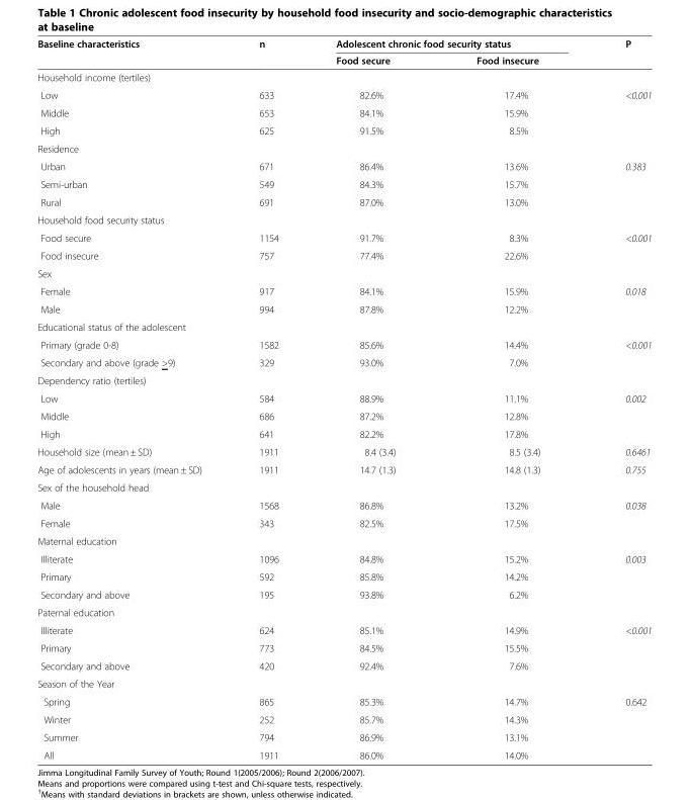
<table><thead><tr><td rowspan="2">Baseline characteristics</td><td rowspan="2">n</td><td colspan="2">Adolescent chronic food security status</td><td rowspan="2">P</td></tr><tr><td>Food secure</td><td>Food insecure</td></tr></thead><tbody><tr><td colspan="5">Household income (tertiles)</td></tr><tr><td>Low</td><td>633</td><td>82.6%</td><td>17.4%</td><td rowspan="3">&lt;0.001</td></tr><tr><td>Middle</td><td>653</td><td>84.1%</td><td>15.9%</td></tr><tr><td>High</td><td>625</td><td>91.5%</td><td>8.5%</td></tr><tr><td colspan="5">Residence</td></tr><tr><td>Urban</td><td>671</td><td>86.4%</td><td>13.6%</td><td rowspan="3">0.383</td></tr><tr><td>Semi-urban</td><td>549</td><td>84.3%</td><td>15.7%</td></tr><tr><td>Rural</td><td>691</td><td>87.0%</td><td>13.0%</td></tr><tr><td colspan="5">Household food security status</td></tr><tr><td>Food secure</td><td>1154</td><td>91.7%</td><td>8.3%</td><td rowspan="2">&lt;0.001</td></tr><tr><td>Food insecure</td><td>757</td><td>77.4%</td><td>22.6%</td></tr><tr><td colspan="5">Sex</td></tr><tr><td>Female</td><td>917</td><td>84.1%</td><td>15.9%</td><td rowspan="2">0.018</td></tr><tr><td>Male</td><td>994</td><td>87.8%</td><td>12.2%</td></tr><tr><td colspan="5">Educational status of the adolescent</td></tr><tr><td>Primary (grade 0-8)</td><td>1582</td><td>85.6%</td><td>14.4%</td><td rowspan="2">&lt;0.001</td></tr><tr><td>Secondary and above (grade &gt;9)</td><td>329</td><td>93.0%</td><td>7.0%</td></tr><tr><td colspan="5">Dependency ratio (tertiles)</td></tr><tr><td>Low</td><td>584</td><td>88.9%</td><td>11.1%</td><td rowspan="3">0.002</td></tr><tr><td>Middle</td><td>686</td><td>87.2%</td><td>12.8%</td></tr><tr><td>High</td><td>641</td><td>82.2%</td><td>17.8%</td></tr><tr><td>Household size (mean ± SD)</td><td>1911</td><td>8.4 (3.4)</td><td>8.5 (3.4)</td><td>0.6461</td></tr><tr><td>Age of adolescents in years (mean ± SD)</td><td>1911</td><td>14.7 (1.3)</td><td>14.8 (1.3)</td><td>0.755</td></tr><tr><td colspan="5">Sex of the household head</td></tr><tr><td>Male</td><td>1568</td><td>86.8%</td><td>13.2%</td><td rowspan="2">0.038</td></tr><tr><td>Female</td><td>343</td><td>82.5%</td><td>17.5%</td></tr><tr><td colspan="5">Maternal education</td></tr><tr><td>Illiterate</td><td>1096</td><td>84.8%</td><td>15.2%</td><td rowspan="3">0.003</td></tr><tr><td>Primary</td><td>592</td><td>85.8%</td><td>14.2%</td></tr><tr><td>Secondary and above</td><td>195</td><td>93.8%</td><td>6.2%</td></tr><tr><td colspan="5">Paternal education</td></tr><tr><td>Illiterate</td><td>624</td><td>85.1%</td><td>14.9%</td><td rowspan="3">&lt;0.001</td></tr><tr><td>Primary</td><td>773</td><td>84.5%</td><td>15.5%</td></tr><tr><td>Secondary and above</td><td>420</td><td>92.4%</td><td>7.6%</td></tr><tr><td colspan="5">Season of the Year</td></tr><tr><td>Spring</td><td>865</td><td>85.3%</td><td>14.7%</td><td>0.642</td></tr><tr><td>Winter</td><td>252</td><td>85.7%</td><td>14.3%</td><td></td></tr><tr><td>Summer</td><td>794</td><td>86.9%</td><td>13.1%</td><td></td></tr><tr><td>All</td><td>1911</td><td>86.0%</td><td>14.0%</td><td></td></tr></tbody></table>